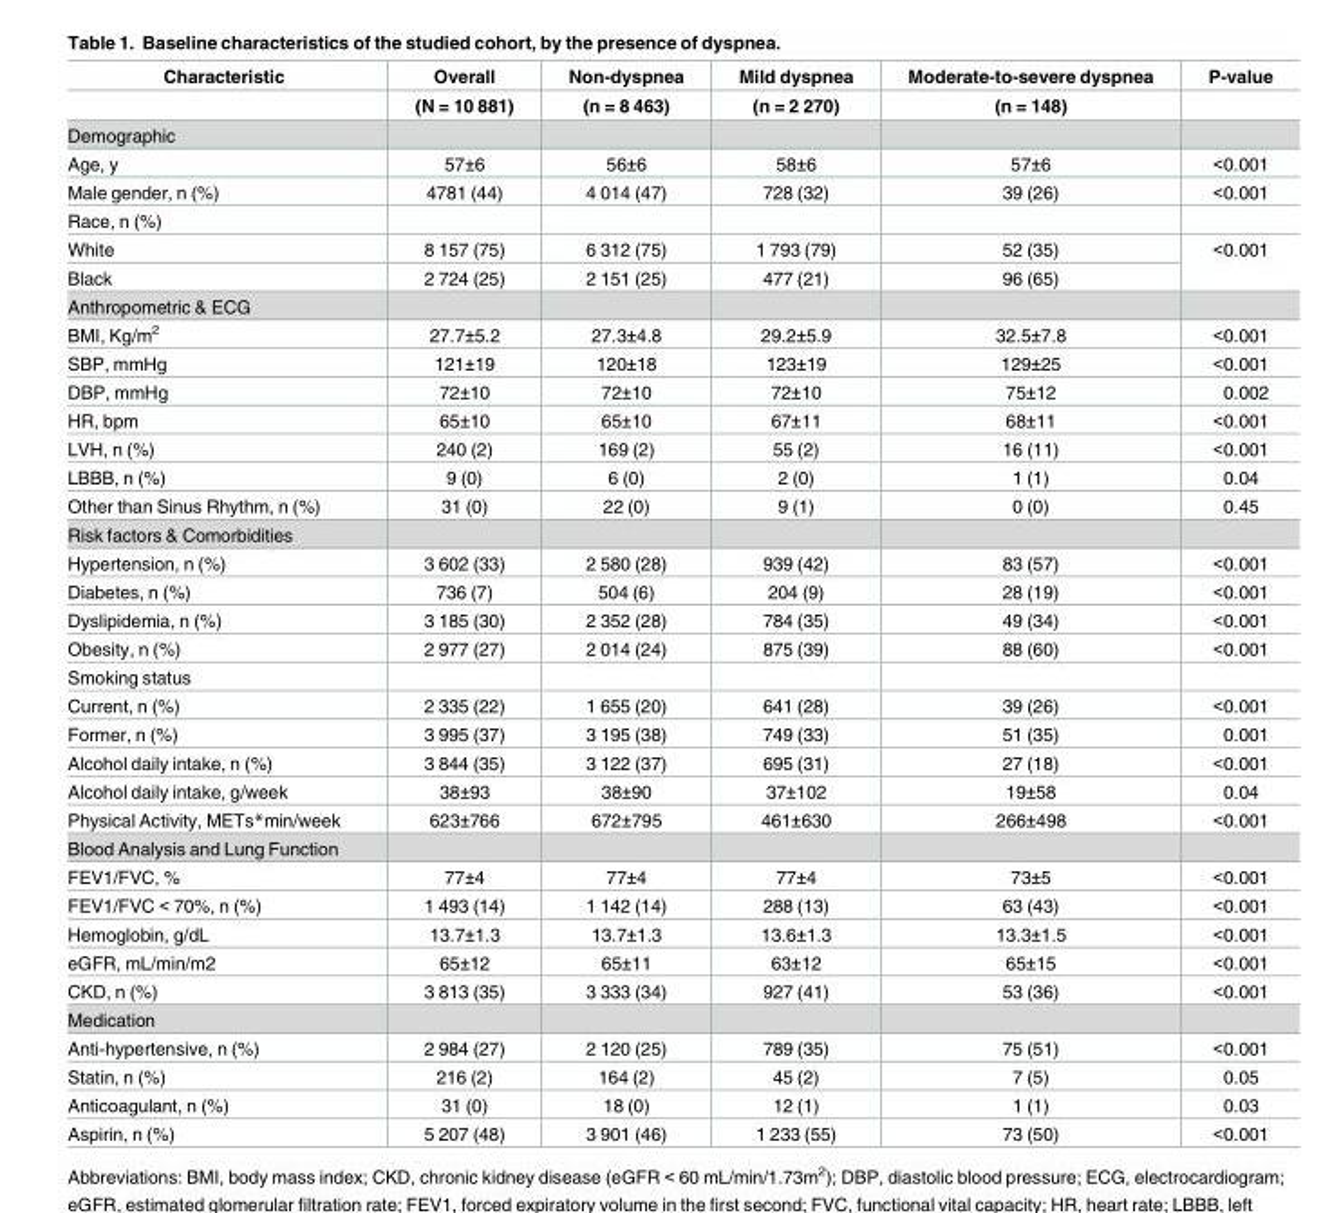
<table><thead><tr><td rowspan="2">Characteristic</td><td rowspan="2">Overall (N = 10 881)</td><td rowspan="2">Non-dyspnea (n = 8 463)</td><td rowspan="2">Mild dyspnea (n = 2 270)</td><td rowspan="2">Moderate-to-severe dyspnea (n = 148)</td><td rowspan="2">P-value</td></tr><tr></tr></thead><tbody><tr><td colspan="6">Demographic</td></tr><tr><td>Age, y</td><td>57±6</td><td>56±6</td><td>58±6</td><td>57±6</td><td>&lt;0.001</td></tr><tr><td>Male gender, n (%)</td><td>4781 (44)</td><td>4 014 (47)</td><td>728 (32)</td><td>39 (26)</td><td>&lt;0.001</td></tr><tr><td colspan="6">Race, n (%)</td></tr><tr><td>White</td><td>8 157 (75)</td><td>6 312 (75)</td><td>1 793 (79)</td><td>52 (35)</td><td rowspan="2">&lt;0.001</td></tr><tr><td>Black</td><td>2 724 (25)</td><td>2 151 (25)</td><td>477 (21)</td><td>96 (65)</td></tr><tr><td colspan="6">Anthropometric &amp; ECG</td></tr><tr><td>BMI, Kg/m<sup>2</sup></td><td>27.7±5.2</td><td>27.3±4.8</td><td>29.2±5.9</td><td>32.5±7.8</td><td>&lt;0.001</td></tr><tr><td>SBP, mmHg</td><td>121±19</td><td>120±18</td><td>123±19</td><td>129±25</td><td>&lt;0.001</td></tr><tr><td>DBP, mmHg</td><td>72±10</td><td>72±10</td><td>72±10</td><td>75±12</td><td>0.002</td></tr><tr><td>HR, bpm</td><td>65±10</td><td>65±10</td><td>67±11</td><td>68±11</td><td>&lt;0.001</td></tr><tr><td>LVH, n (%)</td><td>240 (2)</td><td>169 (2)</td><td>55 (2)</td><td>16 (11)</td><td>&lt;0.001</td></tr><tr><td>LBBB, n (%)</td><td>9 (0)</td><td>6 (0)</td><td>2 (0)</td><td>1 (1)</td><td>0.04</td></tr><tr><td>Other than Sinus Rhythm, n (%)</td><td>31 (0)</td><td>22 (0)</td><td>9 (1)</td><td>0 (0)</td><td>0.45</td></tr><tr><td colspan="6">Risk factors &amp; Comorbidities</td></tr><tr><td>Hypertension, n (%)</td><td>3 602 (33)</td><td>2 580 (28)</td><td>939 (42)</td><td>83 (57)</td><td>&lt;0.001</td></tr><tr><td>Diabetes, n (%)</td><td>736 (7)</td><td>504 (6)</td><td>204 (9)</td><td>28 (19)</td><td>&lt;0.001</td></tr><tr><td>Dyslipidemia, n (%)</td><td>3 185 (30)</td><td>2 352 (28)</td><td>784 (35)</td><td>49 (34)</td><td>&lt;0.001</td></tr><tr><td>Obesity, n (%)</td><td>2 977 (27)</td><td>2 014 (24)</td><td>875 (39)</td><td>88 (60)</td><td>&lt;0.001</td></tr><tr><td colspan="6">Smoking status</td></tr><tr><td>Current, n (%)</td><td>2 335 (22)</td><td>1 655 (20)</td><td>641 (28)</td><td>39 (26)</td><td>&lt;0.001</td></tr><tr><td>Former, n (%)</td><td>3 995 (37)</td><td>3 195 (38)</td><td>749 (33)</td><td>51 (35)</td><td>0.001</td></tr><tr><td>Alcohol daily intake, n (%)</td><td>3 844 (35)</td><td>3 122 (37)</td><td>695 (31)</td><td>27 (18)</td><td>&lt;0.001</td></tr><tr><td>Alcohol daily intake, g/week</td><td>38±93</td><td>38±90</td><td>37±102</td><td>19±58</td><td>0.04</td></tr><tr><td>Physical Activity, METs*min/week</td><td>623±766</td><td>672±795</td><td>461±630</td><td>266±498</td><td>&lt;0.001</td></tr><tr><td colspan="6">Blood Analysis and Lung Function</td></tr><tr><td>FEV1/FVC, %</td><td>77±4</td><td>77±4</td><td>77±4</td><td>73±5</td><td>&lt;0.001</td></tr><tr><td>FEV1/FVC &lt; 70%, n (%)</td><td>1 493 (14)</td><td>1 142 (14)</td><td>288 (13)</td><td>63 (43)</td><td>&lt;0.001</td></tr><tr><td>Hemoglobin, g/dL</td><td>13.7±1.3</td><td>13.7±1.3</td><td>13.6±1.3</td><td>13.3±1.5</td><td>&lt;0.001</td></tr><tr><td>eGFR, mL/min/m2</td><td>65±12</td><td>65±11</td><td>63±12</td><td>65±15</td><td>&lt;0.001</td></tr><tr><td>CKD, n (%)</td><td>3 813 (35)</td><td>3 333 (34)</td><td>927 (41)</td><td>53 (36)</td><td>&lt;0.001</td></tr><tr><td colspan="6">Medication</td></tr><tr><td>Anti-hypertensive, n (%)</td><td>2 984 (27)</td><td>2 120 (25)</td><td>789 (35)</td><td>75 (51)</td><td>&lt;0.001</td></tr><tr><td>Statin, n (%)</td><td>216 (2)</td><td>164 (2)</td><td>45 (2)</td><td>7 (5)</td><td>0.05</td></tr><tr><td>Anticoagulant, n (%)</td><td>31 (0)</td><td>18 (0)</td><td>12 (1)</td><td>1 (1)</td><td>0.03</td></tr><tr><td>Aspirin, n (%)</td><td>5 207 (48)</td><td>3 901 (46)</td><td>1 233 (55)</td><td>73 (50)</td><td>&lt;0.001</td></tr></tbody></table>